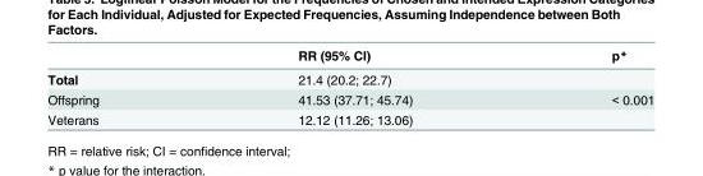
<table><thead><tr><td></td><td>RR (95% CI)</td><td>p*</td></tr></thead><tbody><tr><td>Total</td><td>21.4 (20.2; 22.7)</td><td></td></tr><tr><td>Offspring</td><td>41.53 (37.71; 45.74)</td><td>&lt; 0.001</td></tr><tr><td>Veterans</td><td>12.12 (11.26; 13.06)</td><td></td></tr></tbody></table>